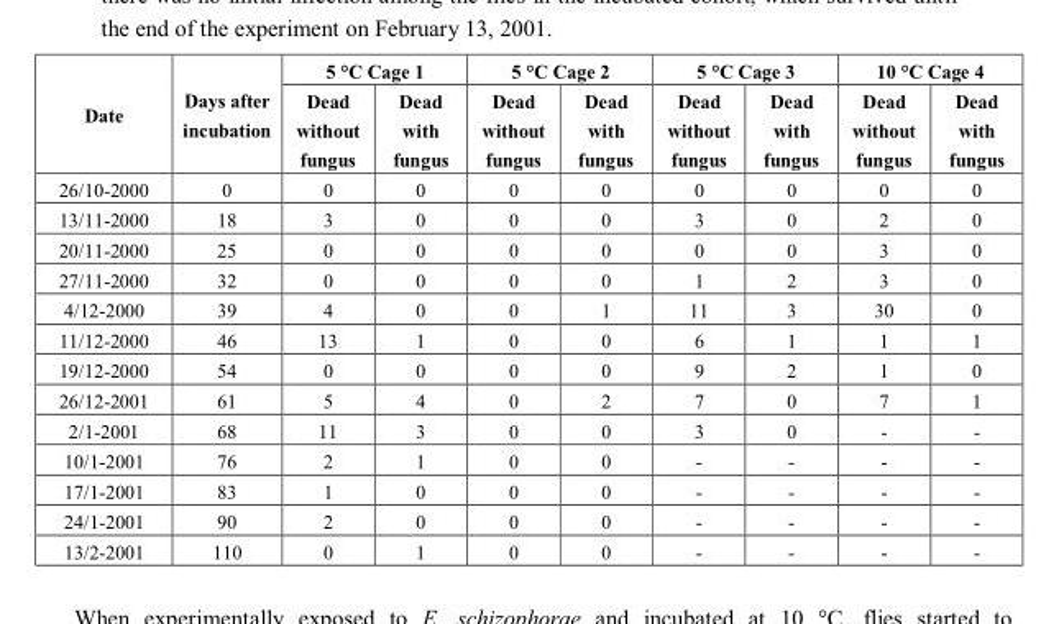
<table><thead><tr><td rowspan="2">Date</td><td rowspan="2">Days after incubation</td><td colspan="2">5 °C Cage 1</td><td colspan="2">5 °C Cage 2</td><td colspan="2">5 °C Cage 3</td><td colspan="2">10 °C Cage 4</td></tr><tr><td>Dead without fungus</td><td>Dead with fungus</td><td>Dead without fungus</td><td>Dead with fungus</td><td>Dead without fungus</td><td>Dead with fungus</td><td>Dead without fungus</td><td>Dead with fungus</td></tr></thead><tbody><tr><td>26/10-2000</td><td>0</td><td>0</td><td>0</td><td>0</td><td>0</td><td>0</td><td>0</td><td>0</td><td>0</td></tr><tr><td>13/11-2000</td><td>18</td><td>3</td><td>0</td><td>0</td><td>0</td><td>3</td><td>0</td><td>2</td><td>0</td></tr><tr><td>20/11-2000</td><td>25</td><td>0</td><td>0</td><td>0</td><td>0</td><td>0</td><td>0</td><td>3</td><td>0</td></tr><tr><td>27/11-2000</td><td>32</td><td>0</td><td>0</td><td>0</td><td>0</td><td>1</td><td>2</td><td>3</td><td>0</td></tr><tr><td>4/12-2000</td><td>39</td><td>4</td><td>0</td><td>0</td><td>1</td><td>11</td><td>3</td><td>30</td><td>0</td></tr><tr><td>11/12-2000</td><td>46</td><td>13</td><td>1</td><td>0</td><td>0</td><td>6</td><td>1</td><td>1</td><td>1</td></tr><tr><td>19/12-2000</td><td>54</td><td>0</td><td>0</td><td>0</td><td>0</td><td>9</td><td>2</td><td>1</td><td>0</td></tr><tr><td>26/12-2001</td><td>61</td><td>5</td><td>4</td><td>0</td><td>2</td><td>7</td><td>0</td><td>7</td><td>1</td></tr><tr><td>2/1-2001</td><td>68</td><td>11</td><td>3</td><td>0</td><td>0</td><td>3</td><td>0</td><td>-</td><td>-</td></tr><tr><td>10/1-2001</td><td>76</td><td>2</td><td>1</td><td>0</td><td>0</td><td>-</td><td>-</td><td>-</td><td>-</td></tr><tr><td>17/1-2001</td><td>83</td><td>1</td><td>0</td><td>0</td><td>0</td><td>-</td><td>-</td><td>-</td><td>-</td></tr><tr><td>24/1-2001</td><td>90</td><td>2</td><td>0</td><td>0</td><td>0</td><td>-</td><td>-</td><td>-</td><td>-</td></tr><tr><td>13/2-2001</td><td>110</td><td>0</td><td>1</td><td>0</td><td>0</td><td>-</td><td>-</td><td>-</td><td>-</td></tr></tbody></table>